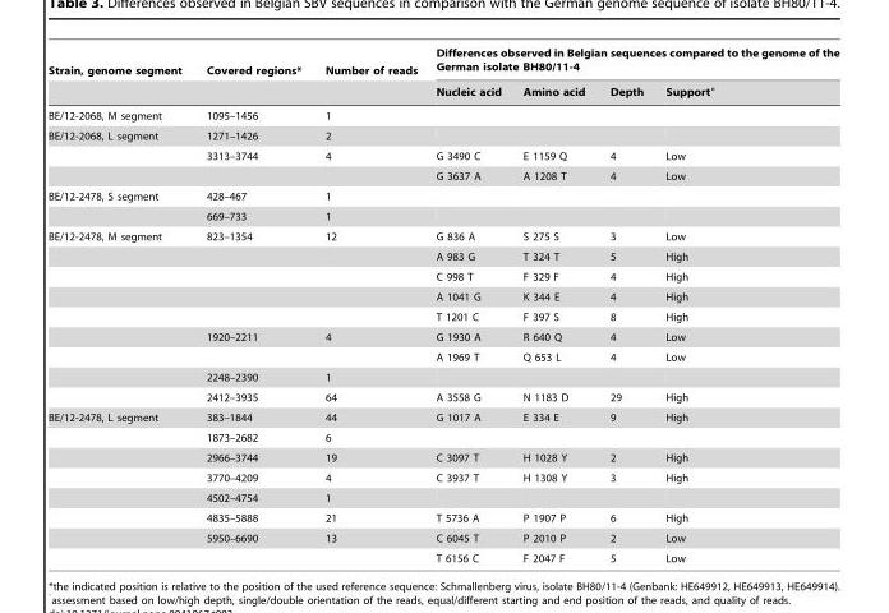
<table><thead><tr><td rowspan="2">Strain, genome segment</td><td rowspan="2">Covered regions*</td><td rowspan="2">Number of reads</td><td colspan="4">Differences observed in Belgian sequences compared to the genome of the German isolate BH80/11-4</td></tr><tr><td>Nucleic acid</td><td>Amino acid</td><td>Depth</td><td>Support°</td></tr></thead><tbody><tr><td>BE/12-2068, M segment</td><td>1095–1456</td><td>1</td><td></td><td></td><td></td><td></td></tr><tr><td rowspan="3">BE/12-2068, L segment</td><td>1271–1426</td><td>2</td><td></td><td></td><td></td><td></td></tr><tr><td>3313–3744</td><td>4</td><td>G 3490 C</td><td>E 1159 Q</td><td>4</td><td>Low</td></tr><tr><td></td><td></td><td>G 3637 A</td><td>A 1208 T</td><td>4</td><td>Low</td></tr><tr><td rowspan="2">BE/12-2478, S segment</td><td>428–467</td><td>1</td><td></td><td></td><td></td><td></td></tr><tr><td>669–733</td><td>1</td><td></td><td></td><td></td><td></td></tr><tr><td rowspan="9">BE/12-2478, M segment</td><td>823–1354</td><td>12</td><td>G 836 A</td><td>S 275 S</td><td>3</td><td>Low</td></tr><tr><td></td><td></td><td>A 983 G</td><td>T 324 T</td><td>5</td><td>High</td></tr><tr><td></td><td></td><td>C 998 T</td><td>F 329 F</td><td>4</td><td>High</td></tr><tr><td></td><td></td><td>A 1041 G</td><td>K 344 E</td><td>4</td><td>High</td></tr><tr><td></td><td></td><td>T 1201 C</td><td>F 397 S</td><td>8</td><td>High</td></tr><tr><td>1920–2211</td><td>4</td><td>G 1930 A</td><td>R 640 Q</td><td>4</td><td>Low</td></tr><tr><td></td><td></td><td>A 1969 T</td><td>Q 653 L</td><td>4</td><td>Low</td></tr><tr><td>2248–2390</td><td>1</td><td></td><td></td><td></td><td></td></tr><tr><td>2412–3935</td><td>64</td><td>A 3558 G</td><td>N 1183 D</td><td>29</td><td>High</td></tr><tr><td rowspan="8">BE/12-2478, L segment</td><td>383–1844</td><td>44</td><td>G 1017 A</td><td>E 334 E</td><td>9</td><td>High</td></tr><tr><td>1873–2682</td><td>6</td><td></td><td></td><td></td><td></td></tr><tr><td>2966–3744</td><td>19</td><td>C 3097 T</td><td>H 1028 Y</td><td>2</td><td>High</td></tr><tr><td>3770–4209</td><td>4</td><td>C 3937 T</td><td>H 1308 Y</td><td>3</td><td>High</td></tr><tr><td>4502–4754</td><td>1</td><td></td><td></td><td></td><td></td></tr><tr><td>4835–5888</td><td>21</td><td>T 5736 A</td><td>P 1907 P</td><td>6</td><td>High</td></tr><tr><td>5950–6690</td><td>13</td><td>C 6045 T</td><td>P 2010 P</td><td>2</td><td>Low</td></tr><tr><td></td><td></td><td>T 6156 C</td><td>F 2047 F</td><td>5</td><td>Low</td></tr></tbody></table>